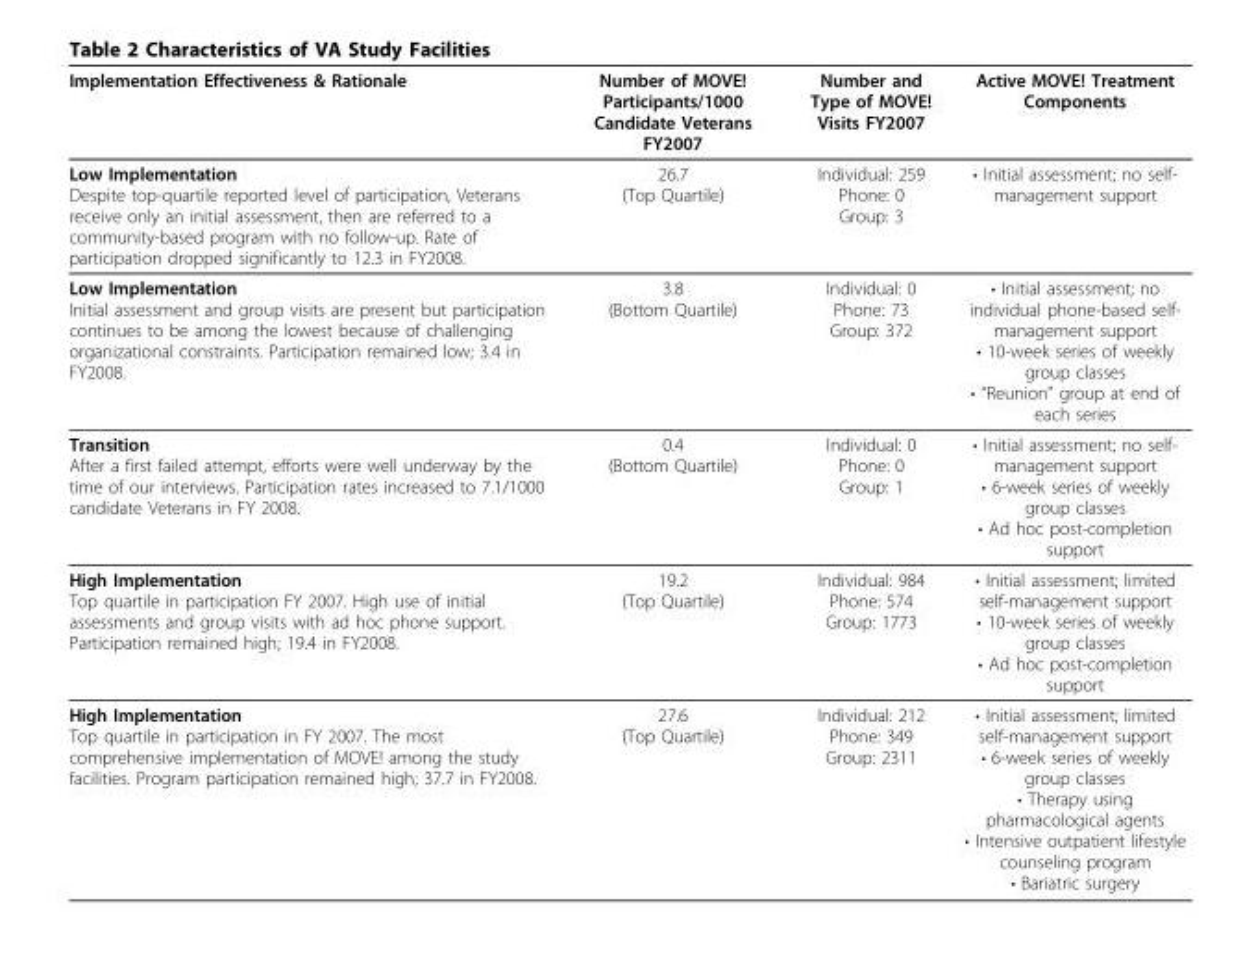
<table><thead><tr><td>Implementation Effectiveness &amp; Rationale</td><td>Number of MOVE! Participants/1000 Candidate Veterans FY2007</td><td>Number and Type of MOVE! Visits FY2007</td><td>Active MOVE! Treatment Components</td></tr></thead><tbody><tr><td>Low Implementation Despite top-quartile reported level of participation, Veterans receive only an initial assessment, then are referred to a community-based program with no follow-up. Rate of participation dropped significantly to 12.3 in FY2008.</td><td>26.7 (Top Quartile)</td><td>Individual: 259 Phone: 0 Group: 3</td><td>• Initial assessment; no self- management support</td></tr><tr><td>Low Implementation Initial assessment and group visits are present but participation continues to be among the lowest because of challenging organizational constraints. Participation remained low; 3.4 in FY2008.</td><td>3.8 (Bottom Quartile)</td><td>Individual: 0 Phone: 73 Group: 372</td><td>• Initial assessment; no individual phone-based self- management support • 10-week series of weekly group classes • “Reunion” group at end of each series</td></tr><tr><td>Transition After a first failed attempt, efforts were well underway by the time of our interviews. Participation rates increased to 7.1/1000 candidate Veterans in FY 2008.</td><td>0.4 (Bottom Quartile)</td><td>Individual: 0 Phone: 0 Group: 1</td><td>• Initial assessment; no self- management support • 6-week series of weekly group classes • Ad hoc post-completion support</td></tr><tr><td>High Implementation Top quartile in participation FY 2007. High use of initial assessments and group visits with ad hoc phone support. Participation remained high; 19.4 in FY2008.</td><td>19.2 (Top Quartile)</td><td>Individual: 984 Phone: 574 Group: 1773</td><td>• Initial assessment; limited self-management support • 10-week series of weekly group classes • Ad hoc post-completion support</td></tr><tr><td>High Implementation Top quartile in participation in FY 2007. The most comprehensive implementation of MOVE! among the study facilities. Program participation remained high; 37.7 in FY2008.</td><td>27.6 (Top Quartile)</td><td>Individual: 212 Phone: 349 Group: 2311</td><td>• Initial assessment; limited self-management support • 6-week series of weekly group classes • Therapy using pharmacological agents • Intensive outpatient lifestyle counseling program • Bariatric surgery</td></tr></tbody></table>